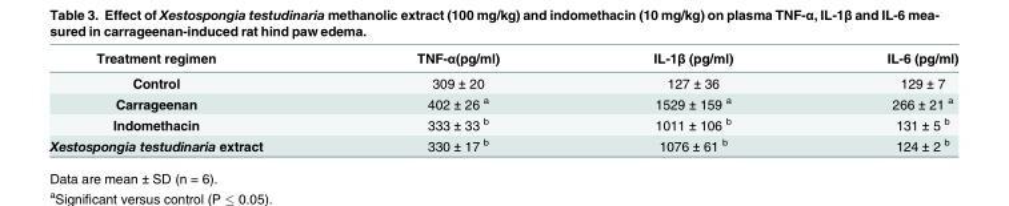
<table><thead><tr><td>Treatment regimen</td><td>TNF-α(pg/ml)</td><td>IL-1β (pg/ml)</td><td>IL-6 (pg/ml)</td></tr></thead><tbody><tr><td>Control</td><td>309 ± 20</td><td>127 ± 36</td><td>129 ± 7</td></tr><tr><td>Carrageenan</td><td>402 ± 26 <sup>a</sup></td><td>1529 ± 159 <sup>a</sup></td><td>266 ± 21 <sup>a</sup></td></tr><tr><td>Indomethacin</td><td>333 ± 33 <sup>b</sup></td><td>1011 ± 106 <sup>b</sup></td><td>131 ± 5 <sup>b</sup></td></tr><tr><td>Xestospongia testudinaria extract</td><td>330 ± 17 <sup>b</sup></td><td>1076 ± 61 <sup>b</sup></td><td>124 ± 2 <sup>b</sup></td></tr></tbody></table>